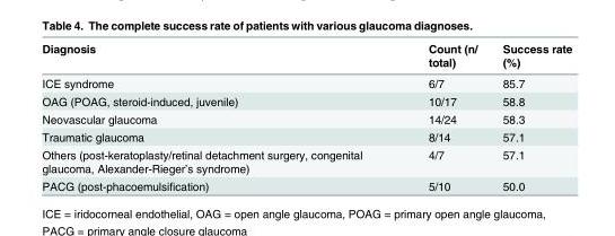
<table><thead><tr><td>Diagnosis</td><td>Count (n/ total)</td><td>Success rate (%)</td></tr></thead><tbody><tr><td>ICE syndrome</td><td>6/7</td><td>85.7</td></tr><tr><td>OAG (POAG, steroid-induced, juvenile)</td><td>10/17</td><td>58.8</td></tr><tr><td>Neovascular glaucoma</td><td>14/24</td><td>58.3</td></tr><tr><td>Traumatic glaucoma</td><td>8/14</td><td>57.1</td></tr><tr><td>Others (post-keratoplasty/retinal detachment surgery, congenital glaucoma, Alexander-Rieger’s syndrome)</td><td>4/7</td><td>57.1</td></tr><tr><td>PACG (post-phacoemulsification)</td><td>5/10</td><td>50.0</td></tr></tbody></table>